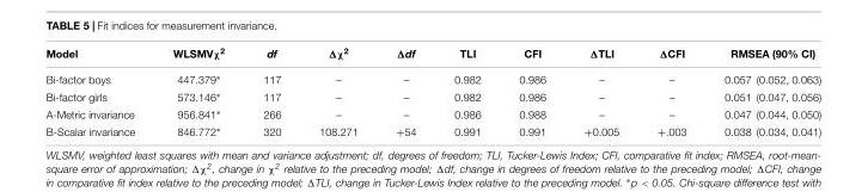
<table><thead><tr><td>Model</td><td>WLSMVχ<sup>2</sup></td><td>df</td><td>Δχ<sup>2</sup></td><td>Δdf</td><td>TLI</td><td>CFI</td><td>ΔTLI</td><td>ΔCFI</td><td>RMSEA (90% CI)</td></tr></thead><tbody><tr><td>Bi-factor boys</td><td>447.379∗</td><td>117</td><td>–</td><td>–</td><td>0.982</td><td>0.986</td><td>–</td><td>–</td><td>0.057 (0.052, 0.063)</td></tr><tr><td>Bi-factor girls</td><td>573.146∗</td><td>117</td><td>–</td><td>–</td><td>0.982</td><td>0.986</td><td>–</td><td>–</td><td>0.051 (0.047, 0.056)</td></tr><tr><td>A-Metric invariance</td><td>956.841∗</td><td>266</td><td>–</td><td>–</td><td>0.986</td><td>0.988</td><td>–</td><td>–</td><td>0.047 (0.044, 0.050)</td></tr><tr><td>B-Scalar invariance</td><td>846.772∗</td><td>320</td><td>108.271</td><td>+54</td><td>0.991</td><td>0.991</td><td>+0.005</td><td>+.003</td><td>0.038 (0.034, 0.041)</td></tr></tbody></table>